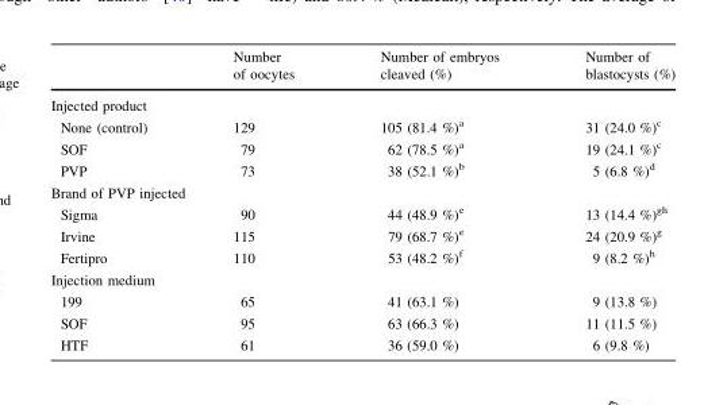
<table><thead><tr><td></td><td>Number of oocytes</td><td>Number of embryos cleaved (%)</td><td>Number of blastocysts (%)</td></tr></thead><tbody><tr><td colspan="4">Injected product</td></tr><tr><td>None (control)</td><td>129</td><td>105 (81.4 %)<sup>a</sup></td><td>31 (24.0 %)<sup>c</sup></td></tr><tr><td>SOF</td><td>79</td><td>62 (78.5 %)<sup>a</sup></td><td>19 (24.1 %)<sup>c</sup></td></tr><tr><td>PVP</td><td>73</td><td>38 (52.1 %)<sup>b</sup></td><td>5 (6.8 %)<sup>d</sup></td></tr><tr><td colspan="4">Brand of PVP injected</td></tr><tr><td>Sigma</td><td>90</td><td>44 (48.9 %)<sup>e</sup></td><td>13 (14.4 %)<sup>gh</sup></td></tr><tr><td>Irvine</td><td>115</td><td>79 (68.7 %)<sup>e</sup></td><td>24 (20.9 %)<sup>g</sup></td></tr><tr><td>Fertipro</td><td>110</td><td>53 (48.2 %)<sup>f</sup></td><td>9 (8.2 %)<sup>h</sup></td></tr><tr><td colspan="4">Injection medium</td></tr><tr><td>199</td><td>65</td><td>41 (63.1 %)</td><td>9 (13.8 %)</td></tr><tr><td>SOF</td><td>95</td><td>63 (66.3 %)</td><td>11 (11.5 %)</td></tr><tr><td>HTF</td><td>61</td><td>36 (59.0 %)</td><td>6 (9.8 %)</td></tr></tbody></table>